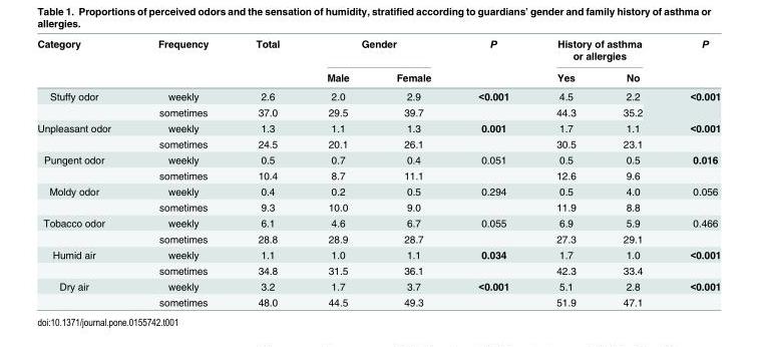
<table><thead><tr><td rowspan="2">Category</td><td rowspan="2">Frequency</td><td rowspan="2">Total</td><td colspan="2">Gender</td><td rowspan="2">P</td><td colspan="2">History of asthma or allergies</td><td rowspan="2">P</td></tr><tr><td>Male</td><td>Female</td><td>Yes</td><td>No</td></tr></thead><tbody><tr><td rowspan="2">Stuffy odor</td><td>weekly</td><td>2.6</td><td>2.0</td><td>2.9</td><td>&lt;0.001</td><td>4.5</td><td>2.2</td><td rowspan="2">&lt;0.001</td></tr><tr><td>sometimes</td><td>37.0</td><td>29.5</td><td>39.7</td><td></td><td>44.3</td><td>35.2</td></tr><tr><td rowspan="2">Unpleasant odor</td><td>weekly</td><td>1.3</td><td>1.1</td><td>1.3</td><td>0.001</td><td>1.7</td><td>1.1</td><td>&lt;0.001</td></tr><tr><td>sometimes</td><td>24.5</td><td>20.1</td><td>26.1</td><td></td><td>30.5</td><td>23.1</td><td></td></tr><tr><td rowspan="2">Pungent odor</td><td>weekly</td><td>0.5</td><td>0.7</td><td>0.4</td><td>0.051</td><td>0.5</td><td>0.5</td><td>0.016</td></tr><tr><td>sometimes</td><td>10.4</td><td>8.7</td><td>11.1</td><td></td><td>12.6</td><td>9.6</td><td></td></tr><tr><td rowspan="2">Moldy odor</td><td>weekly</td><td>0.4</td><td>0.2</td><td>0.5</td><td>0.294</td><td>0.5</td><td>4.0</td><td>0.056</td></tr><tr><td>sometimes</td><td>9.3</td><td>10.0</td><td>9.0</td><td></td><td>11.9</td><td>8.8</td><td></td></tr><tr><td rowspan="2">Tobacco odor</td><td>weekly</td><td>6.1</td><td>4.6</td><td>6.7</td><td>0.055</td><td>6.9</td><td>5.9</td><td>0.466</td></tr><tr><td>sometimes</td><td>28.8</td><td>28.9</td><td>28.7</td><td></td><td>27.3</td><td>29.1</td><td></td></tr><tr><td rowspan="2">Humid air</td><td>weekly</td><td>1.1</td><td>1.0</td><td>1.1</td><td>0.034</td><td>1.7</td><td>1.0</td><td>&lt;0.001</td></tr><tr><td>sometimes</td><td>34.8</td><td>31.5</td><td>36.1</td><td></td><td>42.3</td><td>33.4</td><td></td></tr><tr><td rowspan="2">Dry air</td><td>weekly</td><td>3.2</td><td>1.7</td><td>3.7</td><td>&lt;0.001</td><td>5.1</td><td>2.8</td><td>&lt;0.001</td></tr><tr><td>sometimes</td><td>48.0</td><td>44.5</td><td>49.3</td><td></td><td>51.9</td><td>47.1</td><td></td></tr></tbody></table>